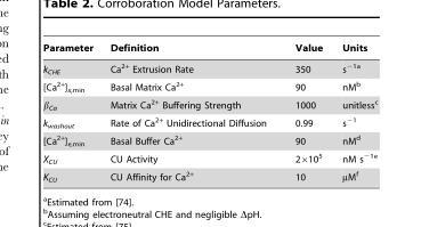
<table><thead><tr><td>Parameter</td><td>Definition</td><td>Value</td><td>Units</td></tr></thead><tbody><tr><td>k<sub>CHE</sub></td><td>Ca<sup>2+</sup> Extrusion Rate</td><td>350</td><td>s<sup>−1</sup>a</td></tr><tr><td>[Ca<sup>2+</sup>]<sub>x,min</sub></td><td>Basal Matrix Ca<sup>2+</sup></td><td>90</td><td>nM<sup>b</sup></td></tr><tr><td>β<sub>Ca</sub></td><td>Matrix Ca<sup>2+</sup> Buffering Strength</td><td>1000</td><td>unitless<sup>c</sup></td></tr><tr><td>k<sub>washout</sub></td><td>Rate of Ca<sup>2+</sup> Unidirectional Diffusion</td><td>0.99</td><td>s<sup>−1</sup></td></tr><tr><td>[Ca<sup>2+</sup>]<sub>e,min</sub></td><td>Basal Buffer Ca<sup>2+</sup></td><td>90</td><td>nM<sup>d</sup></td></tr><tr><td>X<sub>CU</sub></td><td>CU Activity</td><td>2×10<sup>5</sup></td><td>nM s<sup>−1</sup>e</td></tr><tr><td>K<sub>CU</sub></td><td>CU Affinity for Ca<sup>2+</sup></td><td>10</td><td>µM<sup>f</sup></td></tr></tbody></table>